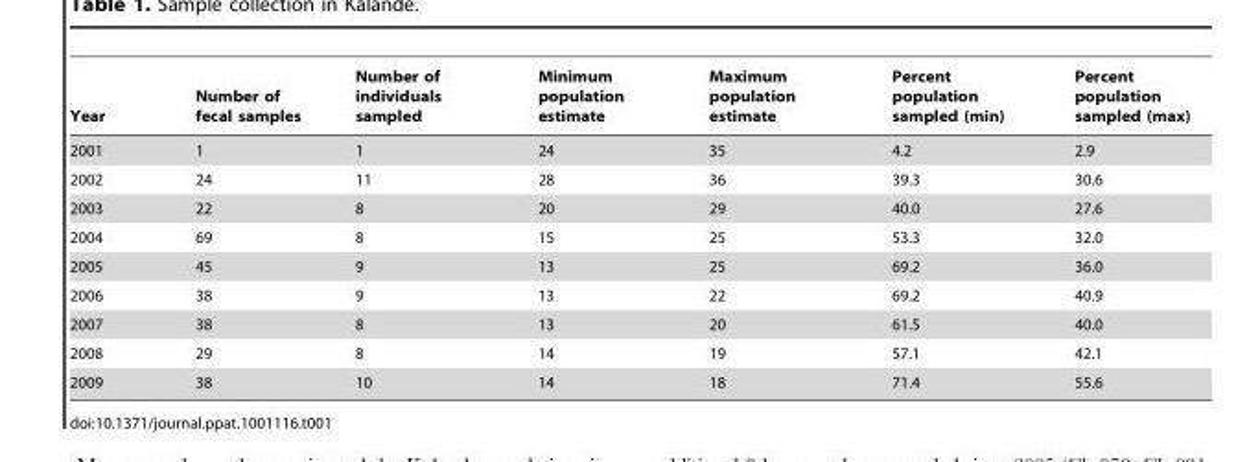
<table><thead><tr><td>Year</td><td>Number of fecal samples</td><td>Number of individuals sampled</td><td>Minimum population estimate</td><td>Maximum population estimate</td><td>Percent population sampled (min)</td><td>Percent population sampled (max)</td></tr></thead><tbody><tr><td>2001</td><td>1</td><td>1</td><td>24</td><td>35</td><td>4.2</td><td>2.9</td></tr><tr><td>2002</td><td>24</td><td>11</td><td>28</td><td>36</td><td>39.3</td><td>30.6</td></tr><tr><td>2003</td><td>22</td><td>8</td><td>20</td><td>29</td><td>40.0</td><td>27.6</td></tr><tr><td>2004</td><td>69</td><td>8</td><td>15</td><td>25</td><td>53.3</td><td>32.0</td></tr><tr><td>2005</td><td>45</td><td>9</td><td>13</td><td>25</td><td>69.2</td><td>36.0</td></tr><tr><td>2006</td><td>38</td><td>9</td><td>13</td><td>22</td><td>69.2</td><td>40.9</td></tr><tr><td>2007</td><td>38</td><td>8</td><td>13</td><td>20</td><td>61.5</td><td>40.0</td></tr><tr><td>2008</td><td>29</td><td>8</td><td>14</td><td>19</td><td>57.1</td><td>42.1</td></tr><tr><td>2009</td><td>38</td><td>10</td><td>14</td><td>18</td><td>71.4</td><td>55.6</td></tr></tbody></table>